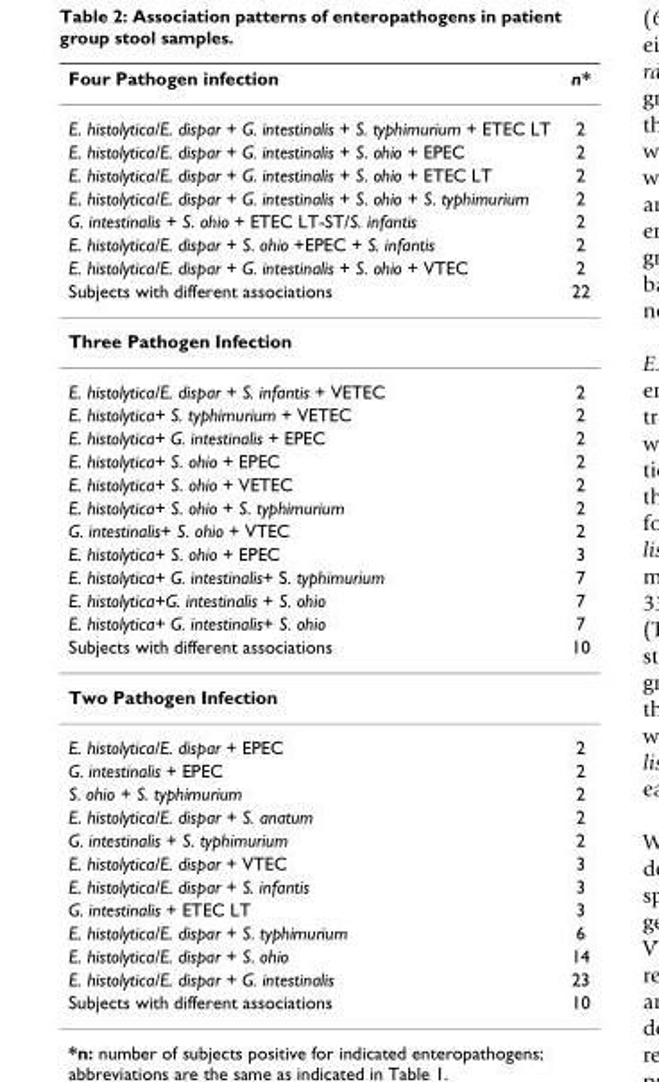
<table><thead><tr><td>Four Pathogen infection</td><td>n*</td></tr></thead><tbody><tr><td>E. histolytica/E. dispar + G. intestinalis + S. typhimurium + ETEC LT</td><td>2</td></tr><tr><td>E. histolytica/E. dispar + G. intestinalis + S. ohio + EPEC</td><td>2</td></tr><tr><td>E. histolytica/E. dispar + G. intestinalis + S. ohio + ETEC LT</td><td>2</td></tr><tr><td>E. histolytica/E. dispar + G. intestinalis + S. ohio + S. typhimurium</td><td>2</td></tr><tr><td>G. intestinalis + S. ohio + ETEC LT-ST/S. infantis</td><td>2</td></tr><tr><td>E. histolytica/E. dispar + S. ohio +EPEC + S. infantis</td><td>2</td></tr><tr><td>E. histolytica/E. dispar + G. intestinalis + S. ohio + VTEC</td><td>2</td></tr><tr><td>Subjects with different associations</td><td>22</td></tr><tr><td colspan="2">Three Pathogen Infection</td></tr><tr><td>E. histolytica/E. dispar + S. infantis + VETEC</td><td>2</td></tr><tr><td>E. histolytica+ S. typhimurium + VETEC</td><td>2</td></tr><tr><td>E. histolytica+ G. intestinalis + EPEC</td><td>2</td></tr><tr><td>E. histolytica+ S. ohio + EPEC</td><td>2</td></tr><tr><td>E. histolytica+ S. ohio + VETEC</td><td>2</td></tr><tr><td>E. histolytica+ S. ohio + S. typhimurium</td><td>2</td></tr><tr><td>G. intestinalis+ S. ohio + VTEC</td><td>2</td></tr><tr><td>E. histolytica+ S. ohio + EPEC</td><td>3</td></tr><tr><td>E. histolytica+ G. intestinalis+ S. typhimurium</td><td>7</td></tr><tr><td>E. histolytica+G. intestinalis + S. ohio</td><td>7</td></tr><tr><td>E. histolytica+ G. intestinalis+ S. ohio</td><td>7</td></tr><tr><td>Subjects with different associations</td><td>10</td></tr><tr><td colspan="2">Two Pathogen Infection</td></tr><tr><td>E. histolytica/E. dispar + EPEC</td><td>2</td></tr><tr><td>G. intestinalis + EPEC</td><td>2</td></tr><tr><td>S. ohio + S. typhimurium</td><td>2</td></tr><tr><td>E. histolytica/E. dispar + S. anatum</td><td>2</td></tr><tr><td>G. intestinalis + S. typhimurium</td><td>2</td></tr><tr><td>E. histolytica/E. dispar + VTEC</td><td>3</td></tr><tr><td>E. histolytica/E. dispar + S. infantis</td><td>3</td></tr><tr><td>G. intestinalis + ETEC LT</td><td>3</td></tr><tr><td>E. histolytica/E. dispar + S. typhimurium</td><td>6</td></tr><tr><td>E. histolytica/E. dispar + S. ohio</td><td>14</td></tr><tr><td>E. histolytica/E. dispar + G. intestinalis</td><td>23</td></tr><tr><td>Subjects with different associations</td><td>10</td></tr></tbody></table>